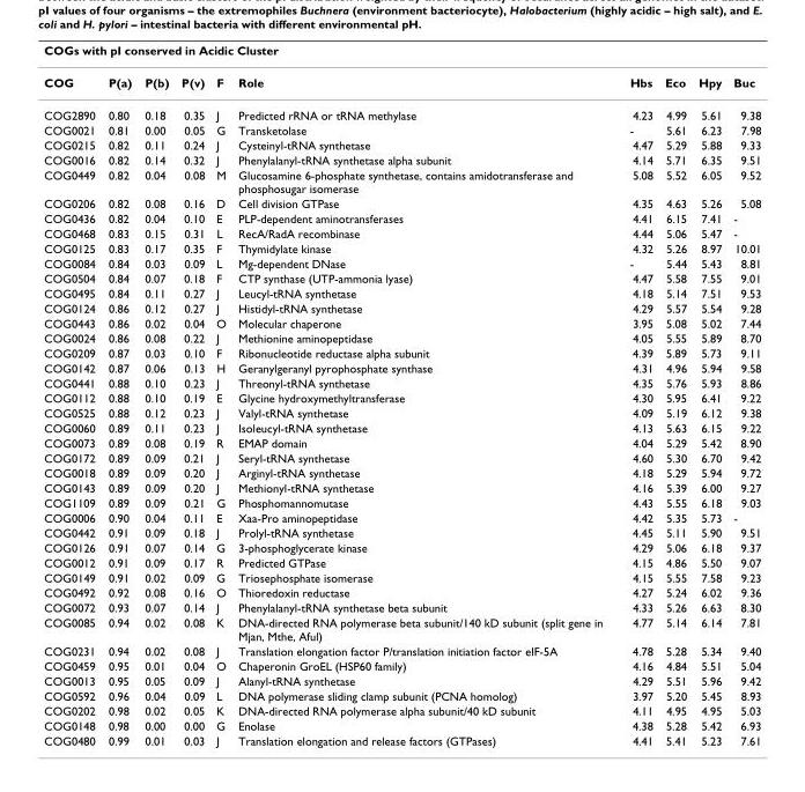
<table><thead><tr><td colspan="10">COGs with pI conserved in Acidic Cluster</td></tr><tr><td>COG</td><td>P(a)</td><td>P(b)</td><td>P(v)</td><td>F</td><td>Role</td><td>Hbs</td><td>Eco</td><td>Hpy</td><td>Buc</td></tr></thead><tbody><tr><td>COG2890</td><td>0.80</td><td>0.18</td><td>0.35</td><td>J</td><td>Predicted rRNA or tRNA methylase</td><td>4.23</td><td>4.99</td><td>5.61</td><td>9.38</td></tr><tr><td>COG0021</td><td>0.81</td><td>0.00</td><td>0.05</td><td>G</td><td>Transketolase</td><td>-</td><td>5.61</td><td>6.23</td><td>7.98</td></tr><tr><td>COG0215</td><td>0.82</td><td>0.11</td><td>0.24</td><td>J</td><td>Cysteinyl-tRNA synthetase</td><td>4.47</td><td>5.29</td><td>5.88</td><td>9.33</td></tr><tr><td>COG0016</td><td>0.82</td><td>0.14</td><td>0.32</td><td>J</td><td>Phenylalanyl-tRNA synthetase alpha subunit</td><td>4.14</td><td>5.71</td><td>6.35</td><td>9.51</td></tr><tr><td>COG0449</td><td>0.82</td><td>0.04</td><td>0.08</td><td>M</td><td>Glucosamine 6-phosphate synthetase, contains amidotransferase and phosphosugar isomerase</td><td>5.08</td><td>5.52</td><td>6.05</td><td>9.52</td></tr><tr><td>COG0206</td><td>0.82</td><td>0.08</td><td>0.16</td><td>D</td><td>Cell division GTPase</td><td>4.35</td><td>4.63</td><td>5.26</td><td>5.08</td></tr><tr><td>COG0436</td><td>0.82</td><td>0.04</td><td>0.10</td><td>E</td><td>PLP-dependent aminotransferases</td><td>4.41</td><td>6.15</td><td>7.41</td><td>-</td></tr><tr><td>COG0468</td><td>0.83</td><td>0.15</td><td>0.31</td><td>L</td><td>RecA/RadA recombinase</td><td>4.44</td><td>5.06</td><td>5.47</td><td>-</td></tr><tr><td>COG0125</td><td>0.83</td><td>0.17</td><td>0.35</td><td>F</td><td>Thymidylate kinase</td><td>4.32</td><td>5.26</td><td>8.97</td><td>10.01</td></tr><tr><td>COG0084</td><td>0.84</td><td>0.03</td><td>0.09</td><td>L</td><td>Mg-dependent DNase</td><td>-</td><td>5.44</td><td>5.43</td><td>8.81</td></tr><tr><td>COG0504</td><td>0.84</td><td>0.07</td><td>0.18</td><td>F</td><td>CTP synthase (UTP-ammonia lyase)</td><td>4.47</td><td>5.58</td><td>7.55</td><td>9.01</td></tr><tr><td>COG0495</td><td>0.84</td><td>0.11</td><td>0.27</td><td>J</td><td>Leucyl-tRNA synthetase</td><td>4.18</td><td>5.14</td><td>7.51</td><td>9.53</td></tr><tr><td>COG0124</td><td>0.86</td><td>0.12</td><td>0.27</td><td>J</td><td>Histidyl-tRNA synthetase</td><td>4.29</td><td>5.57</td><td>5.54</td><td>9.28</td></tr><tr><td>COG0443</td><td>0.86</td><td>0.02</td><td>0.04</td><td>O</td><td>Molecular chaperone</td><td>3.95</td><td>5.08</td><td>5.02</td><td>7.44</td></tr><tr><td>COG0024</td><td>0.86</td><td>0.08</td><td>0.22</td><td>J</td><td>Methionine aminopeptidase</td><td>4.05</td><td>5.55</td><td>5.89</td><td>8.70</td></tr><tr><td>COG0209</td><td>0.87</td><td>0.03</td><td>0.10</td><td>F</td><td>Ribonucleotide reductase alpha subunit</td><td>4.39</td><td>5.89</td><td>5.73</td><td>9.11</td></tr><tr><td>COG0142</td><td>0.87</td><td>0.06</td><td>0.13</td><td>H</td><td>Geranylgeranyl pyrophosphate synthase</td><td>4.31</td><td>4.96</td><td>5.94</td><td>9.58</td></tr><tr><td>COG0441</td><td>0.88</td><td>0.10</td><td>0.23</td><td>J</td><td>Threonyl-tRNA synthetase</td><td>4.35</td><td>5.76</td><td>5.93</td><td>8.86</td></tr><tr><td>COG0112</td><td>0.88</td><td>0.10</td><td>0.19</td><td>E</td><td>Glycine hydroxymethyltransferase</td><td>4.30</td><td>5.95</td><td>6.41</td><td>9.22</td></tr><tr><td>COG0525</td><td>0.88</td><td>0.12</td><td>0.23</td><td>J</td><td>Valyl-tRNA synthetase</td><td>4.09</td><td>5.19</td><td>6.12</td><td>9.38</td></tr><tr><td>COG0060</td><td>0.89</td><td>0.11</td><td>0.23</td><td>J</td><td>Isoleucyl-tRNA synthetase</td><td>4.13</td><td>5.63</td><td>6.15</td><td>9.22</td></tr><tr><td>COG0073</td><td>0.89</td><td>0.08</td><td>0.19</td><td>R</td><td>EMAP domain</td><td>4.04</td><td>5.29</td><td>5.42</td><td>8.90</td></tr><tr><td>COG0172</td><td>0.89</td><td>0.09</td><td>0.21</td><td>J</td><td>Seryl-tRNA synthetase</td><td>4.60</td><td>5.30</td><td>6.70</td><td>9.42</td></tr><tr><td>COG0018</td><td>0.89</td><td>0.09</td><td>0.20</td><td>J</td><td>Arginyl-tRNA synthetase</td><td>4.18</td><td>5.29</td><td>5.94</td><td>9.72</td></tr><tr><td>COG0143</td><td>0.89</td><td>0.09</td><td>0.20</td><td>J</td><td>Methionyl-tRNA synthetase</td><td>4.16</td><td>5.39</td><td>6.00</td><td>9.27</td></tr><tr><td>COG1109</td><td>0.89</td><td>0.09</td><td>0.21</td><td>G</td><td>Phosphomannomutase</td><td>4.43</td><td>5.55</td><td>6.18</td><td>9.03</td></tr><tr><td>COG0006</td><td>0.90</td><td>0.04</td><td>0.11</td><td>E</td><td>Xaa-Pro aminopeptidase</td><td>4.42</td><td>5.35</td><td>5.73</td><td>-</td></tr><tr><td>COG0442</td><td>0.91</td><td>0.09</td><td>0.18</td><td>J</td><td>Prolyl-tRNA synthetase</td><td>4.45</td><td>5.11</td><td>5.90</td><td>9.51</td></tr><tr><td>COG0126</td><td>0.91</td><td>0.07</td><td>0.14</td><td>G</td><td>3-phosphoglycerate kinase</td><td>4.29</td><td>5.06</td><td>6.18</td><td>9.37</td></tr><tr><td>COG0012</td><td>0.91</td><td>0.09</td><td>0.17</td><td>R</td><td>Predicted GTPase</td><td>4.15</td><td>4.86</td><td>5.50</td><td>9.07</td></tr><tr><td>COG0149</td><td>0.91</td><td>0.02</td><td>0.09</td><td>G</td><td>Triosephosphate isomerase</td><td>4.15</td><td>5.55</td><td>7.58</td><td>9.23</td></tr><tr><td>COG0492</td><td>0.92</td><td>0.08</td><td>0.16</td><td>O</td><td>Thioredoxin reductase</td><td>4.27</td><td>5.24</td><td>6.02</td><td>9.36</td></tr><tr><td>COG0072</td><td>0.93</td><td>0.07</td><td>0.14</td><td>J</td><td>Phenylalanyl-tRNA synthetase beta subunit</td><td>4.33</td><td>5.26</td><td>6.63</td><td>8.30</td></tr><tr><td>COG0085</td><td>0.94</td><td>0.02</td><td>0.08</td><td>K</td><td>DNA-directed RNA polymerase beta subunit/140 kD subunit (split gene in Mjan, Mthe, Aful)</td><td>4.77</td><td>5.14</td><td>6.14</td><td>7.81</td></tr><tr><td>COG0231</td><td>0.94</td><td>0.02</td><td>0.08</td><td>J</td><td>Translation elongation factor P/translation initiation factor eIF-5A</td><td>4.78</td><td>5.28</td><td>5.34</td><td>9.40</td></tr><tr><td>COG0459</td><td>0.95</td><td>0.01</td><td>0.04</td><td>O</td><td>Chaperonin GroEL (HSP60 family)</td><td>4.16</td><td>4.84</td><td>5.51</td><td>5.04</td></tr><tr><td>COG0013</td><td>0.95</td><td>0.05</td><td>0.09</td><td>J</td><td>Alanyl-tRNA synthetase</td><td>4.29</td><td>5.51</td><td>5.96</td><td>9.42</td></tr><tr><td>COG0592</td><td>0.96</td><td>0.04</td><td>0.09</td><td>L</td><td>DNA polymerase sliding clamp subunit (PCNA homolog)</td><td>3.97</td><td>5.20</td><td>5.45</td><td>8.93</td></tr><tr><td>COG0202</td><td>0.98</td><td>0.02</td><td>0.05</td><td>K</td><td>DNA-directed RNA polymerase alpha subunit/40 kD subunit</td><td>4.11</td><td>4.95</td><td>4.95</td><td>5.03</td></tr><tr><td>COG0148</td><td>0.98</td><td>0.00</td><td>0.00</td><td>G</td><td>Enolase</td><td>4.38</td><td>5.28</td><td>5.42</td><td>6.93</td></tr><tr><td>COG0480</td><td>0.99</td><td>0.01</td><td>0.03</td><td>J</td><td>Translation elongation and release factors (GTPases)</td><td>4.41</td><td>5.41</td><td>5.23</td><td>7.61</td></tr></tbody></table>